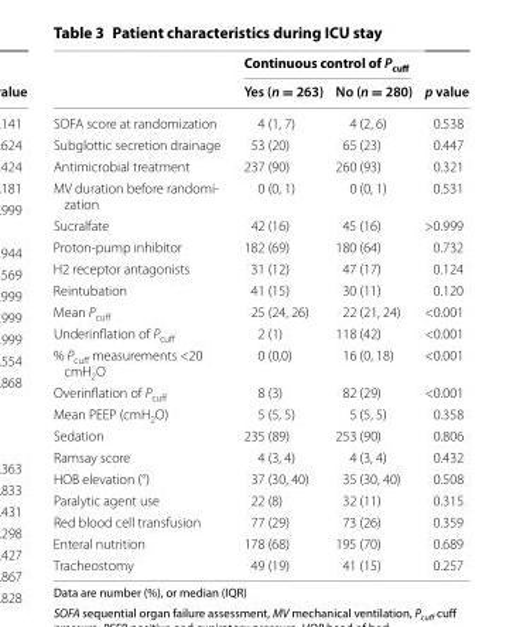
<table><thead><tr><td rowspan="2"></td><td colspan="2">Continuous control of P<sub>cuff</sub></td><td rowspan="2">p value</td></tr><tr><td>Yes (n = 263)</td><td>No (n = 280)</td></tr></thead><tbody><tr><td>SOFA score at randomization</td><td>4 (1, 7)</td><td>4 (2, 6)</td><td>0.538</td></tr><tr><td>Subglottic secretion drainage</td><td>53 (20)</td><td>65 (23)</td><td>0.447</td></tr><tr><td>Antimicrobial treatment</td><td>237 (90)</td><td>260 (93)</td><td>0.321</td></tr><tr><td>MV duration before randomi- zation</td><td>0 (0, 1)</td><td>0 (0, 1)</td><td>0.531</td></tr><tr><td>Sucralfate</td><td>42 (16)</td><td>45 (16)</td><td>&gt;0.999</td></tr><tr><td>Proton-pump inhibitor</td><td>182 (69)</td><td>180 (64)</td><td>0.732</td></tr><tr><td>H2 receptor antagonists</td><td>31 (12)</td><td>47 (17)</td><td>0.124</td></tr><tr><td>Reintubation</td><td>41 (15)</td><td>30 (11)</td><td>0.120</td></tr><tr><td>Mean P<sub>cuff</sub></td><td>25 (24, 26)</td><td>22 (21, 24)</td><td>&lt;0.001</td></tr><tr><td>Underinflation of P<sub>cuff</sub></td><td>2 (1)</td><td>118 (42)</td><td>&lt;0.001</td></tr><tr><td>% P<sub>cuff</sub> measurements &lt;20 cmH<sub>2</sub>O</td><td>0 (0,0)</td><td>16 (0, 18)</td><td>&lt;0.001</td></tr><tr><td>Overinflation of P<sub>cuff</sub></td><td>8 (3)</td><td>82 (29)</td><td>&lt;0.001</td></tr><tr><td>Mean PEEP (cmH<sub>2</sub>O)</td><td>5 (5, 5)</td><td>5 (5, 5)</td><td>0.358</td></tr><tr><td>Sedation</td><td>235 (89)</td><td>253 (90)</td><td>0.806</td></tr><tr><td>Ramsay score</td><td>4 (3, 4)</td><td>4 (3, 4)</td><td>0.432</td></tr><tr><td>HOB elevation (°)</td><td>37 (30, 40)</td><td>35 (30, 40)</td><td>0.508</td></tr><tr><td>Paralytic agent use</td><td>22 (8)</td><td>32 (11)</td><td>0.315</td></tr><tr><td>Red blood cell transfusion</td><td>77 (29)</td><td>73 (26)</td><td>0.359</td></tr><tr><td>Enteral nutrition</td><td>178 (68)</td><td>195 (70)</td><td>0.689</td></tr><tr><td>Tracheostomy</td><td>49 (19)</td><td>41 (15)</td><td>0.257</td></tr></tbody></table>